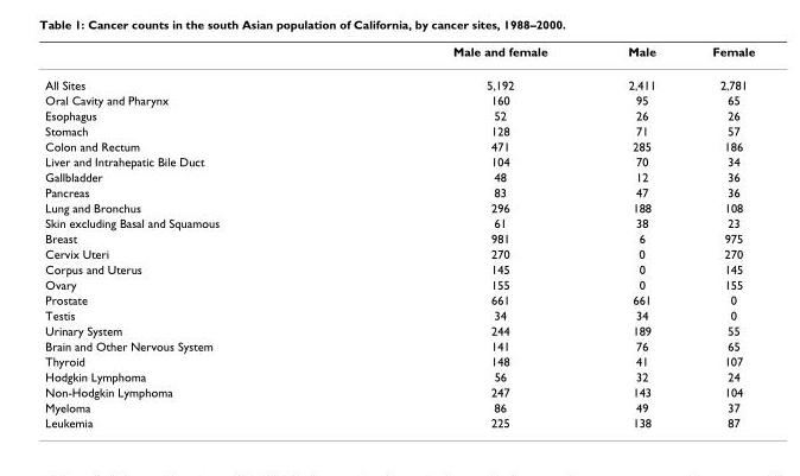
<table><thead><tr><td></td><td>Male and female</td><td>Male</td><td>Female</td></tr></thead><tbody><tr><td>All Sites</td><td>5,192</td><td>2,411</td><td>2,781</td></tr><tr><td>Oral Cavity and Pharynx</td><td>160</td><td>95</td><td>65</td></tr><tr><td>Esophagus</td><td>52</td><td>26</td><td>26</td></tr><tr><td>Stomach</td><td>128</td><td>71</td><td>57</td></tr><tr><td>Colon and Rectum</td><td>471</td><td>285</td><td>186</td></tr><tr><td>Liver and Intrahepatic Bile Duct</td><td>104</td><td>70</td><td>34</td></tr><tr><td>Gallbladder</td><td>48</td><td>12</td><td>36</td></tr><tr><td>Pancreas</td><td>83</td><td>47</td><td>36</td></tr><tr><td>Lung and Bronchus</td><td>296</td><td>188</td><td>108</td></tr><tr><td>Skin excluding Basal and Squamous</td><td>61</td><td>38</td><td>23</td></tr><tr><td>Breast</td><td>981</td><td>6</td><td>975</td></tr><tr><td>Cervix Uteri</td><td>270</td><td>0</td><td>270</td></tr><tr><td>Corpus and Uterus</td><td>145</td><td>0</td><td>145</td></tr><tr><td>Ovary</td><td>155</td><td>0</td><td>155</td></tr><tr><td>Prostate</td><td>661</td><td>661</td><td>0</td></tr><tr><td>Testis</td><td>34</td><td>34</td><td>0</td></tr><tr><td>Urinary System</td><td>244</td><td>189</td><td>55</td></tr><tr><td>Brain and Other Nervous System</td><td>141</td><td>76</td><td>65</td></tr><tr><td>Thyroid</td><td>148</td><td>41</td><td>107</td></tr><tr><td>Hodgkin Lymphoma</td><td>56</td><td>32</td><td>24</td></tr><tr><td>Non-Hodgkin Lymphoma</td><td>247</td><td>143</td><td>104</td></tr><tr><td>Myeloma</td><td>86</td><td>49</td><td>37</td></tr><tr><td>Leukemia</td><td>225</td><td>138</td><td>87</td></tr></tbody></table>